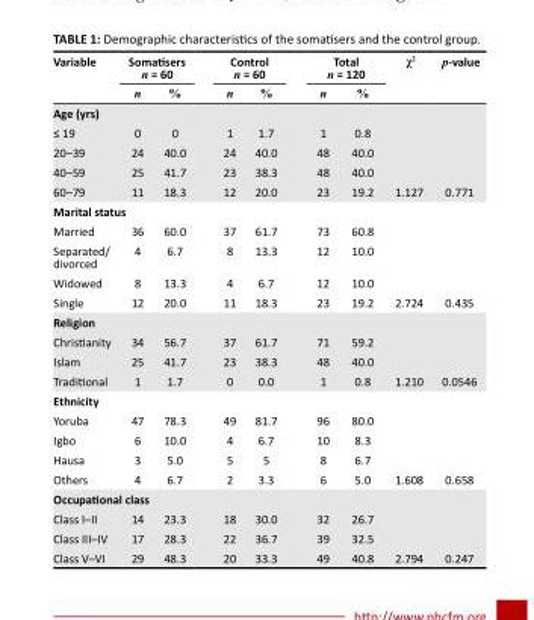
<table><thead><tr><td rowspan="2">Variable</td><td colspan="2">Somatisers n = 60</td><td colspan="2">Control n = 60</td><td colspan="2">Total n = 120</td><td rowspan="2">χ2</td><td rowspan="2">p-value</td></tr><tr><td>n</td><td>%</td><td>n</td><td>%</td><td>n</td><td>%</td></tr></thead><tbody><tr><td colspan="9">Age (yrs)</td></tr><tr><td>≤ 19</td><td>0</td><td>0</td><td>1</td><td>1.7</td><td>1</td><td>0.8</td><td></td><td></td></tr><tr><td>20–39</td><td>24</td><td>40.0</td><td>24</td><td>40.0</td><td>48</td><td>40.0</td><td></td><td></td></tr><tr><td>40–59</td><td>25</td><td>41.7</td><td>23</td><td>38.3</td><td>48</td><td>40.0</td><td></td><td></td></tr><tr><td>60–79</td><td>11</td><td>18.3</td><td>12</td><td>20.0</td><td>23</td><td>19.2</td><td>1.127</td><td>0.771</td></tr><tr><td colspan="9">Marital status</td></tr><tr><td>Married</td><td>36</td><td>60.0</td><td>37</td><td>61.7</td><td>73</td><td>60.8</td><td></td><td></td></tr><tr><td>Separated/ divorced</td><td>4</td><td>6.7</td><td>8</td><td>13.3</td><td>12</td><td>10.0</td><td></td><td></td></tr><tr><td>Widowed</td><td>8</td><td>13.3</td><td>4</td><td>6.7</td><td>12</td><td>10.0</td><td></td><td></td></tr><tr><td>Single</td><td>12</td><td>20.0</td><td>11</td><td>18.3</td><td>23</td><td>19.2</td><td>2.724</td><td>0.435</td></tr><tr><td colspan="9">Religion</td></tr><tr><td>Christianity</td><td>34</td><td>56.7</td><td>37</td><td>61.7</td><td>71</td><td>59.2</td><td></td><td></td></tr><tr><td>Islam</td><td>25</td><td>41.7</td><td>23</td><td>38.3</td><td>48</td><td>40.0</td><td></td><td></td></tr><tr><td>Traditional</td><td>1</td><td>1.7</td><td>0</td><td>0.0</td><td>1</td><td>0.8</td><td>1.210</td><td>0.0546</td></tr><tr><td colspan="9">Ethnicity</td></tr><tr><td>Yoruba</td><td>47</td><td>78.3</td><td>49</td><td>81.7</td><td>96</td><td>80.0</td><td></td><td></td></tr><tr><td>Igbo</td><td>6</td><td>10.0</td><td>4</td><td>6.7</td><td>10</td><td>8.3</td><td></td><td></td></tr><tr><td>Hausa</td><td>3</td><td>5.0</td><td>5</td><td>5</td><td>8</td><td>6.7</td><td></td><td></td></tr><tr><td>Others</td><td>4</td><td>6.7</td><td>2</td><td>3.3</td><td>6</td><td>5.0</td><td>1.608</td><td>0.658</td></tr><tr><td colspan="9">Occupational class</td></tr><tr><td>Class I–II</td><td>14</td><td>23.3</td><td>18</td><td>30.0</td><td>32</td><td>26.7</td><td></td><td></td></tr><tr><td>Class III–IV</td><td>17</td><td>28.3</td><td>22</td><td>36.7</td><td>39</td><td>32.5</td><td></td><td></td></tr><tr><td>Class V–VI</td><td>29</td><td>48.3</td><td>20</td><td>33.3</td><td>49</td><td>40.8</td><td>2.794</td><td>0.247</td></tr></tbody></table>